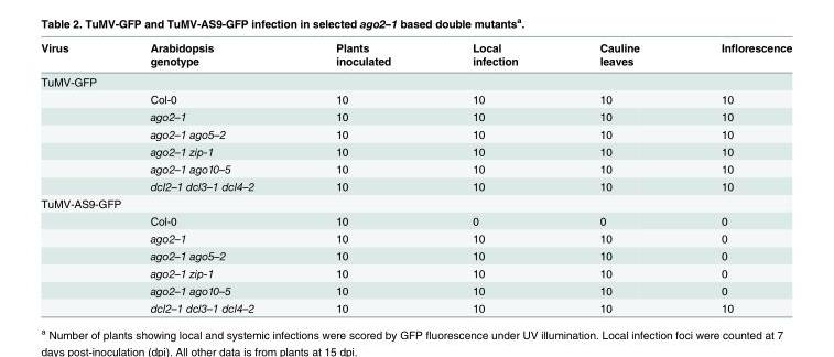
<table><thead><tr><td rowspan="2">Virus</td><td rowspan="2">Arabidopsis genotype</td><td rowspan="2">Plants inoculated</td><td rowspan="2">Local infection</td><td rowspan="2">Cauline leaves</td><td rowspan="2">Inflorescence</td></tr><tr></tr></thead><tbody><tr><td colspan="6">TuMV-GFP</td></tr><tr><td></td><td>Col-0</td><td>10</td><td>10</td><td>10</td><td>10</td></tr><tr><td></td><td>ago2–1</td><td>10</td><td>10</td><td>10</td><td>10</td></tr><tr><td></td><td>ago2–1 ago5–2</td><td>10</td><td>10</td><td>10</td><td>10</td></tr><tr><td></td><td>ago2–1 zip-1</td><td>10</td><td>10</td><td>10</td><td>10</td></tr><tr><td></td><td>ago2–1 ago10–5</td><td>10</td><td>10</td><td>10</td><td>10</td></tr><tr><td></td><td>dcl2–1 dcl3–1 dcl4–2</td><td>10</td><td>10</td><td>10</td><td>10</td></tr><tr><td colspan="6">TuMV-AS9-GFP</td></tr><tr><td></td><td>Col-0</td><td>10</td><td>0</td><td>0</td><td>0</td></tr><tr><td></td><td>ago2–1</td><td>10</td><td>10</td><td>10</td><td>0</td></tr><tr><td></td><td>ago2–1 ago5–2</td><td>10</td><td>10</td><td>10</td><td>0</td></tr><tr><td></td><td>ago2–1 zip-1</td><td>10</td><td>10</td><td>10</td><td>0</td></tr><tr><td></td><td>ago2–1 ago10–5</td><td>10</td><td>10</td><td>10</td><td>0</td></tr><tr><td></td><td>dcl2–1 dcl3–1 dcl4–2</td><td>10</td><td>10</td><td>10</td><td>10</td></tr></tbody></table>